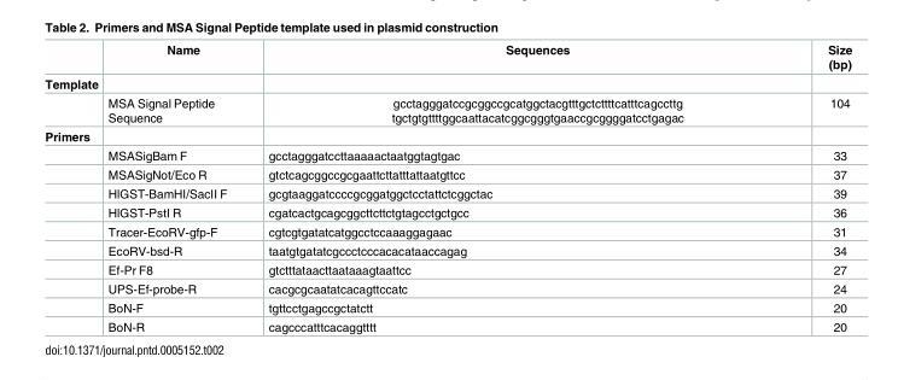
<table><thead><tr><td></td><td>Name</td><td>Sequences</td><td>Size (bp)</td></tr></thead><tbody><tr><td colspan="4">Template</td></tr><tr><td></td><td>MSA Signal Peptide Sequence</td><td>gcctagggatccgcggccgcatggctacgtttgctcttttcatttcagccttg tgctgtgttttggcaattacatcggcgggtgaaccgcggggatcctgagac</td><td>104</td></tr><tr><td colspan="4">Primers</td></tr><tr><td></td><td>MSASigBam F</td><td>gcctagggatccttaaaaactaatggtagtgac</td><td>33</td></tr><tr><td></td><td>MSASigNot/Eco R</td><td>gtctcagcggccgcgaattcttatttattaatgttcc</td><td>37</td></tr><tr><td></td><td>HlGST-BamHI/SacII F</td><td>gcgtaaggatccccgcggatggctcctattctcggctac</td><td>39</td></tr><tr><td></td><td>HlGST-PstI R</td><td>cgatcactgcagcggcttcttctgtagcctgctgcc</td><td>36</td></tr><tr><td></td><td>Tracer-EcoRV-gfp-F</td><td>cgtcgtgatatcatggcctccaaaggagaac</td><td>31</td></tr><tr><td></td><td>EcoRV-bsd-R</td><td>taatgtgatatcgccctcccacacataaccagag</td><td>34</td></tr><tr><td></td><td>Ef-Pr F8</td><td>gtctttataacttaataaagtaattcc</td><td>27</td></tr><tr><td></td><td>UPS-Ef-probe-R</td><td>cacgcgcaatatcacagttccatc</td><td>24</td></tr><tr><td></td><td>BoN-F</td><td>tgttcctgagccgctatctt</td><td>20</td></tr><tr><td></td><td>BoN-R</td><td>cagcccatttcacaggtttt</td><td>20</td></tr></tbody></table>